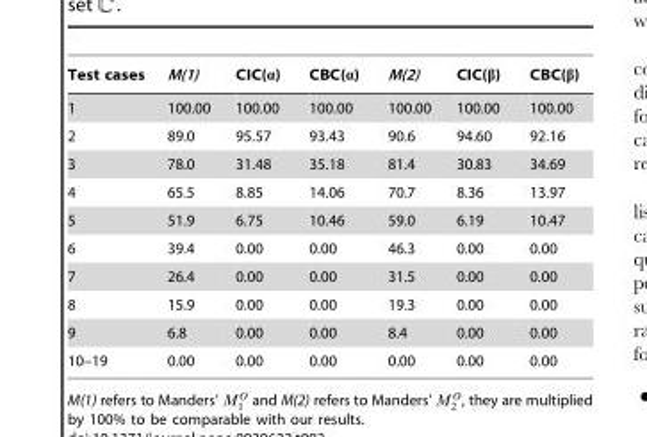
<table><thead><tr><td>Test cases</td><td>M(1)</td><td>CIC(α)</td><td>CBC(α)</td><td>M(2)</td><td>CIC(β)</td><td>CBC(β)</td></tr></thead><tbody><tr><td>1</td><td>100.00</td><td>100.00</td><td>100.00</td><td>100.00</td><td>100.00</td><td>100.00</td></tr><tr><td>2</td><td>89.0</td><td>95.57</td><td>93.43</td><td>90.6</td><td>94.60</td><td>92.16</td></tr><tr><td>3</td><td>78.0</td><td>31.48</td><td>35.18</td><td>81.4</td><td>30.83</td><td>34.69</td></tr><tr><td>4</td><td>65.5</td><td>8.85</td><td>14.06</td><td>70.7</td><td>8.36</td><td>13.97</td></tr><tr><td>5</td><td>51.9</td><td>6.75</td><td>10.46</td><td>59.0</td><td>6.19</td><td>10.47</td></tr><tr><td>6</td><td>39.4</td><td>0.00</td><td>0.00</td><td>46.3</td><td>0.00</td><td>0.00</td></tr><tr><td>7</td><td>26.4</td><td>0.00</td><td>0.00</td><td>31.5</td><td>0.00</td><td>0.00</td></tr><tr><td>8</td><td>15.9</td><td>0.00</td><td>0.00</td><td>19.3</td><td>0.00</td><td>0.00</td></tr><tr><td>9</td><td>6.8</td><td>0.00</td><td>0.00</td><td>8.4</td><td>0.00</td><td>0.00</td></tr><tr><td>10–19</td><td>0.00</td><td>0.00</td><td>0.00</td><td>0.00</td><td>0.00</td><td>0.00</td></tr></tbody></table>